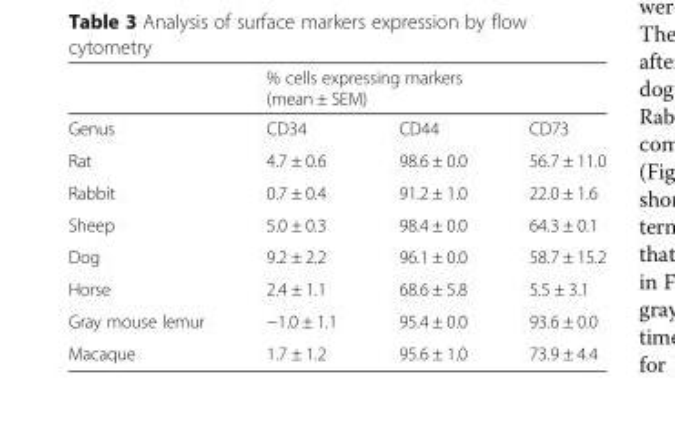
<table><thead><tr><td rowspan="2">Genus</td><td colspan="3">% cells expressing markers (mean ± SEM)</td></tr><tr><td>CD34</td><td>CD44</td><td>CD73</td></tr></thead><tbody><tr><td>Rat</td><td>4.7 ± 0.6</td><td>98.6 ± 0.0</td><td>56.7 ± 11.0</td></tr><tr><td>Rabbit</td><td>0.7 ± 0.4</td><td>91.2 ± 1.0</td><td>22.0 ± 1.6</td></tr><tr><td>Sheep</td><td>5.0 ± 0.3</td><td>98.4 ± 0.0</td><td>64.3 ± 0.1</td></tr><tr><td>Dog</td><td>9.2 ± 2.2</td><td>96.1 ± 0.0</td><td>58.7 ± 15.2</td></tr><tr><td>Horse</td><td>2.4 ± 1.1</td><td>68.6 ± 5.8</td><td>5.5 ± 3.1</td></tr><tr><td>Gray mouse lemur</td><td>−1.0 ± 1.1</td><td>95.4 ± 0.0</td><td>93.6 ± 0.0</td></tr><tr><td>Macaque</td><td>1.7 ± 1.2</td><td>95.6 ± 1.0</td><td>73.9 ± 4.4</td></tr></tbody></table>